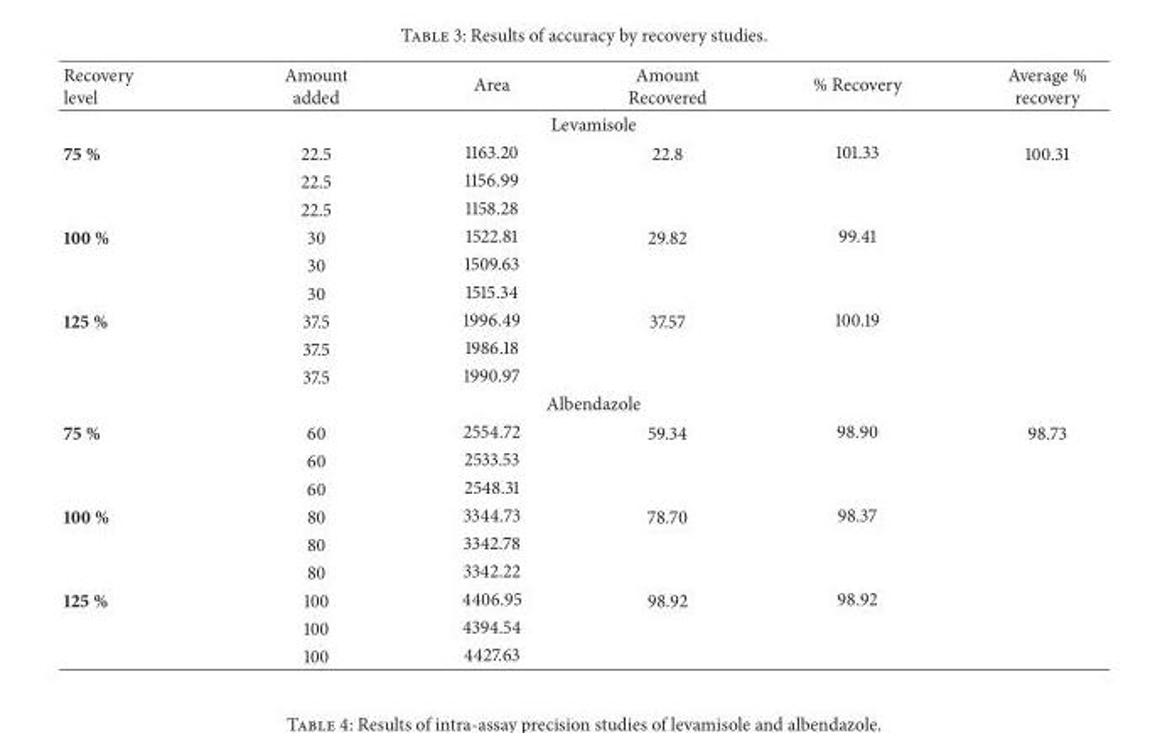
<table><thead><tr><td>Recovery level</td><td>Amount added</td><td>Area</td><td>Amount Recovered</td><td>% Recovery</td><td>Average % recovery</td></tr></thead><tbody><tr><td></td><td></td><td colspan="2">Levamisole</td><td></td><td></td></tr><tr><td rowspan="3">75 %</td><td>22.5</td><td>1163.20</td><td>22.8</td><td>101.33</td><td>100.31</td></tr><tr><td>22.5</td><td>1156.99</td><td rowspan="2"></td><td rowspan="2"></td><td rowspan="2"></td></tr><tr><td>22.5</td><td>1158.28</td></tr><tr><td rowspan="3">100 %</td><td>30</td><td>1522.81</td><td>29.82</td><td>99.41</td><td></td></tr><tr><td>30</td><td>1509.63</td><td rowspan="2"></td><td rowspan="2"></td><td rowspan="2"></td></tr><tr><td>30</td><td>1515.34</td></tr><tr><td rowspan="4">125 %</td><td>37.5</td><td>1996.49</td><td>37.57</td><td>100.19</td><td></td></tr><tr><td>37.5</td><td>1986.18</td><td rowspan="2"></td><td rowspan="2"></td><td rowspan="2"></td></tr><tr><td>37.5</td><td>1990.97</td></tr><tr><td></td><td colspan="2">Albendazole</td><td></td><td></td></tr><tr><td rowspan="3">75 %</td><td>60</td><td>2554.72</td><td>59.34</td><td>98.90</td><td>98.73</td></tr><tr><td>60</td><td>2533.53</td><td rowspan="2"></td><td rowspan="2"></td><td rowspan="2"></td></tr><tr><td>60</td><td>2548.31</td></tr><tr><td rowspan="3">100 %</td><td>80</td><td>3344.73</td><td>78.70</td><td>98.37</td><td></td></tr><tr><td>80</td><td>3342.78</td><td rowspan="2"></td><td rowspan="2"></td><td rowspan="3"></td></tr><tr><td>80</td><td>3342.22</td></tr><tr><td rowspan="3">125 %</td><td>100</td><td>4406.95</td><td>98.92</td><td>98.92</td></tr><tr><td>100</td><td>4394.54</td><td rowspan="2"></td><td rowspan="2"></td><td rowspan="2"></td></tr><tr><td>100</td><td>4427.63</td></tr></tbody></table>